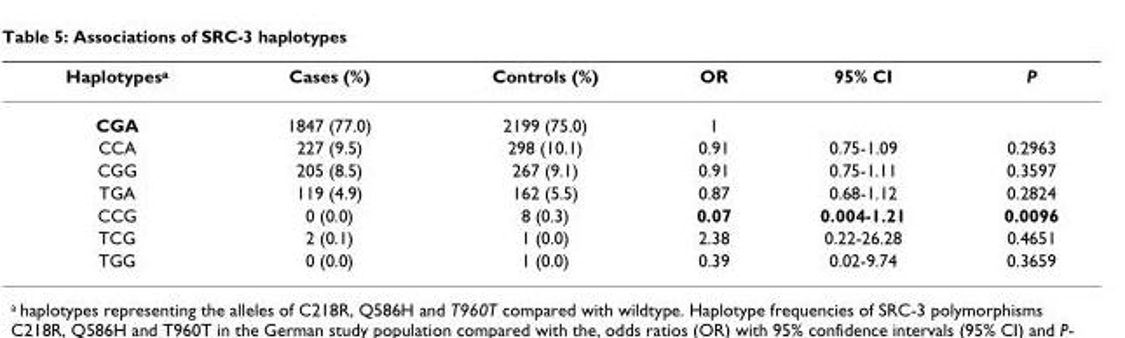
<table><thead><tr><td>Haplotypes<sup>a</sup></td><td>Cases (%)</td><td>Controls (%)</td><td>OR</td><td>95% CI</td><td>P</td></tr></thead><tbody><tr><td>CGA</td><td>1847 (77.0)</td><td>2199 (75.0)</td><td>1</td><td></td><td></td></tr><tr><td>CCA</td><td>227 (9.5)</td><td>298 (10.1)</td><td>0.91</td><td>0.75-1.09</td><td>0.2963</td></tr><tr><td>CGG</td><td>205 (8.5)</td><td>267 (9.1)</td><td>0.91</td><td>0.75-1.11</td><td>0.3597</td></tr><tr><td>TGA</td><td>119 (4.9)</td><td>162 (5.5)</td><td>0.87</td><td>0.68-1.12</td><td>0.2824</td></tr><tr><td>CCG</td><td>0 (0.0)</td><td>8 (0.3)</td><td>0.07</td><td>0.004-1.21</td><td>0.0096</td></tr><tr><td>TCG</td><td>2 (0.1)</td><td>1 (0.0)</td><td>2.38</td><td>0.22-26.28</td><td>0.4651</td></tr><tr><td>TGG</td><td>0 (0.0)</td><td>1 (0.0)</td><td>0.39</td><td>0.02-9.74</td><td>0.3659</td></tr></tbody></table>